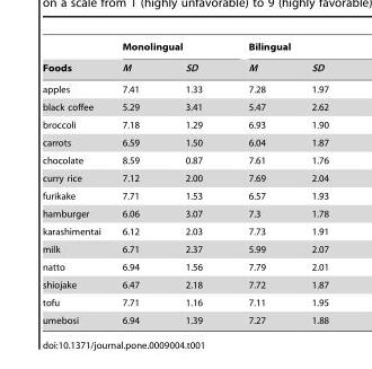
<table><thead><tr><td rowspan="2">Foods</td><td colspan="2">Monolingual</td><td colspan="2">Bilingual</td></tr><tr><td>M</td><td>SD</td><td>M</td><td>SD</td></tr></thead><tbody><tr><td>apples</td><td>7.41</td><td>1.33</td><td>7.28</td><td>1.97</td></tr><tr><td>black coffee</td><td>5.29</td><td>3.41</td><td>5.47</td><td>2.62</td></tr><tr><td>broccoli</td><td>7.18</td><td>1.29</td><td>6.93</td><td>1.90</td></tr><tr><td>carrots</td><td>6.59</td><td>1.50</td><td>6.04</td><td>1.87</td></tr><tr><td>chocolate</td><td>8.59</td><td>0.87</td><td>7.61</td><td>1.76</td></tr><tr><td>curry rice</td><td>7.12</td><td>2.00</td><td>7.69</td><td>2.04</td></tr><tr><td>furikake</td><td>7.71</td><td>1.53</td><td>6.57</td><td>1.93</td></tr><tr><td>hamburger</td><td>6.06</td><td>3.07</td><td>7.3</td><td>1.78</td></tr><tr><td>karashimentai</td><td>6.12</td><td>2.03</td><td>7.73</td><td>1.91</td></tr><tr><td>milk</td><td>6.71</td><td>2.37</td><td>5.99</td><td>2.07</td></tr><tr><td>natto</td><td>6.94</td><td>1.56</td><td>7.79</td><td>2.01</td></tr><tr><td>shiojake</td><td>6.47</td><td>2.18</td><td>7.72</td><td>1.87</td></tr><tr><td>tofu</td><td>7.71</td><td>1.16</td><td>7.11</td><td>1.95</td></tr><tr><td>umebosi</td><td>6.94</td><td>1.39</td><td>7.27</td><td>1.88</td></tr></tbody></table>